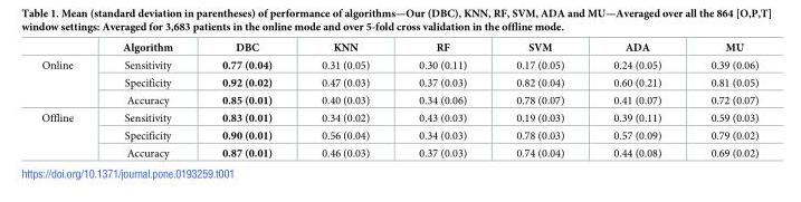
<table><thead><tr><td></td><td>Algorithm</td><td>DBC</td><td>KNN</td><td>RF</td><td>SVM</td><td>ADA</td><td>MU</td></tr></thead><tbody><tr><td rowspan="3">Online</td><td>Sensitivity</td><td>0.77 (0.04)</td><td>0.31 (0.05)</td><td>0.30 (0.11)</td><td>0.17 (0.05)</td><td>0.24 (0.05)</td><td>0.39 (0.06)</td></tr><tr><td>Specificity</td><td>0.92 (0.02)</td><td>0.47 (0.03)</td><td>0.37 (0.03)</td><td>0.82 (0.04)</td><td>0.60 (0.21)</td><td>0.81 (0.05)</td></tr><tr><td>Accuracy</td><td>0.85 (0.01)</td><td>0.40 (0.03)</td><td>0.34 (0.06)</td><td>0.78 (0.07)</td><td>0.41 (0.07)</td><td>0.72 (0.07)</td></tr><tr><td rowspan="3">Offline</td><td>Sensitivity</td><td>0.83 (0.01)</td><td>0.34 (0.02)</td><td>0.43 (0.03)</td><td>0.19 (0.03)</td><td>0.39 (0.11)</td><td>0.59 (0.03)</td></tr><tr><td>Specificity</td><td>0.90 (0.01)</td><td>0.56 (0.04)</td><td>0.34 (0.03)</td><td>0.78 (0.03)</td><td>0.57 (0.09)</td><td>0.79 (0.02)</td></tr><tr><td>Accuracy</td><td>0.87 (0.01)</td><td>0.46 (0.03)</td><td>0.37 (0.03)</td><td>0.74 (0.04)</td><td>0.44 (0.08)</td><td>0.69 (0.02)</td></tr></tbody></table>